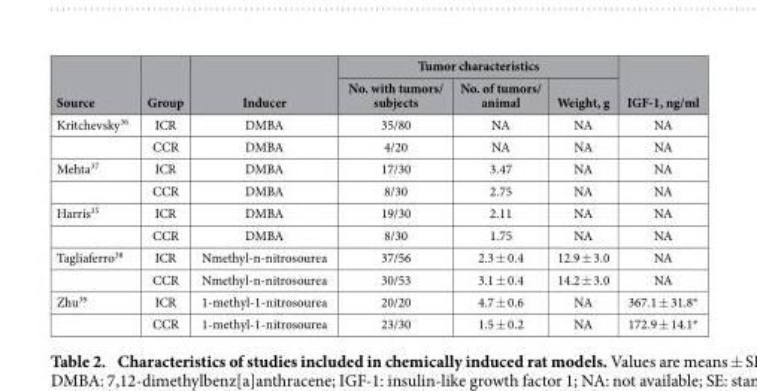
<table><thead><tr><td rowspan="2">Source</td><td rowspan="2">Group</td><td rowspan="2">Inducer</td><td colspan="3">Tumor characteristics</td><td rowspan="2">IGF-1, ng/ml</td></tr><tr><td>No. with tumors/ subjects</td><td>No. of tumors/ animal</td><td>Weight, g</td></tr></thead><tbody><tr><td rowspan="2">Kritchevsky<sup>36</sup></td><td>ICR</td><td>DMBA</td><td>35/80</td><td>NA</td><td>NA</td><td>NA</td></tr><tr><td>CCR</td><td>DMBA</td><td>4/20</td><td>NA</td><td>NA</td><td>NA</td></tr><tr><td rowspan="2">Mehta<sup>37</sup></td><td>ICR</td><td>DMBA</td><td>17/30</td><td>3.47</td><td>NA</td><td>NA</td></tr><tr><td>CCR</td><td>DMBA</td><td>8/30</td><td>2.75</td><td>NA</td><td>NA</td></tr><tr><td rowspan="2">Harris<sup>35</sup></td><td>ICR</td><td>DMBA</td><td>19/30</td><td>2.11</td><td>NA</td><td>NA</td></tr><tr><td>CCR</td><td>DMBA</td><td>8/30</td><td>1.75</td><td>NA</td><td>NA</td></tr><tr><td rowspan="2">Tagliaferro<sup>38</sup></td><td>ICR</td><td>Nmethyl-n-nitrosourea</td><td>37/56</td><td>2.3 ± 0.4</td><td>12.9 ± 3.0</td><td>NA</td></tr><tr><td>CCR</td><td>Nmethyl-n-nitrosourea</td><td>30/53</td><td>3.1 ± 0.4</td><td>14.2 ± 3.0</td><td>NA</td></tr><tr><td rowspan="2">Zhu<sup>39</sup></td><td>ICR</td><td>1-methyl-1-nitrosourea</td><td>20/20</td><td>4.7 ± 0.6</td><td>NA</td><td>367.1 ± 31.8*</td></tr><tr><td>CCR</td><td>1-methyl-1-nitrosourea</td><td>23/30</td><td>1.5 ± 0.2</td><td>NA</td><td>172.9 ± 14.1*</td></tr></tbody></table>